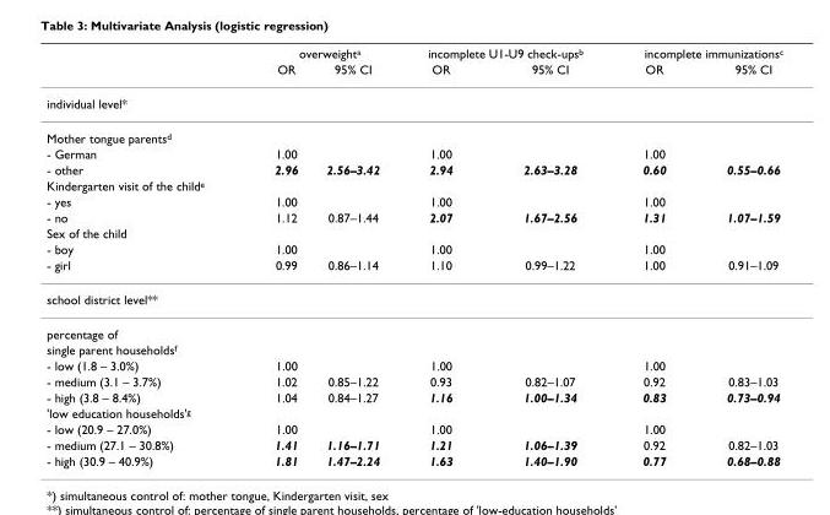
<table><thead><tr><td rowspan="2"></td><td colspan="2">overweight<sup>a</sup></td><td colspan="2">incomplete U1-U9 check-ups<sup>b</sup></td><td colspan="2">incomplete immunizations<sup>c</sup></td></tr><tr><td>OR</td><td>95% CI</td><td>OR</td><td>95% CI</td><td>OR</td><td>95% CI</td></tr></thead><tbody><tr><td colspan="7">individual level*</td></tr><tr><td colspan="7">Mother tongue parents<sup>d</sup></td></tr><tr><td>- German</td><td>1.00</td><td></td><td>1.00</td><td></td><td>1.00</td><td></td></tr><tr><td>- other</td><td>2.96</td><td>2.56–3.42</td><td>2.94</td><td>2.63–3.28</td><td>0.60</td><td>0.55–0.66</td></tr><tr><td colspan="7">Kindergarten visit of the child<sup>e</sup></td></tr><tr><td>- yes</td><td>1.00</td><td></td><td>1.00</td><td></td><td>1.00</td><td></td></tr><tr><td>- no</td><td>1.12</td><td>0.87–1.44</td><td>2.07</td><td>1.67–2.56</td><td>1.31</td><td>1.07–1.59</td></tr><tr><td colspan="7">Sex of the child</td></tr><tr><td>- boy</td><td>1.00</td><td></td><td>1.00</td><td></td><td>1.00</td><td></td></tr><tr><td>- girl</td><td>0.99</td><td>0.86–1.14</td><td>1.10</td><td>0.99–1.22</td><td>1.00</td><td>0.91–1.09</td></tr><tr><td colspan="7">school district level**</td></tr><tr><td colspan="7">percentage of</td></tr><tr><td colspan="7">single parent households<sup>f</sup></td></tr><tr><td>- low (1.8 – 3.0%)</td><td>1.00</td><td></td><td>1.00</td><td></td><td>1.00</td><td></td></tr><tr><td>- medium (3.1 – 3.7%)</td><td>1.02</td><td>0.85–1.22</td><td>0.93</td><td>0.82–1.07</td><td>0.92</td><td>0.83–1.03</td></tr><tr><td>- high (3.8 – 8.4%)</td><td>1.04</td><td>0.84–1.27</td><td>1.16</td><td>1.00–1.34</td><td>0.83</td><td>0.73–0.94</td></tr><tr><td colspan="7">&#x27;low education households&#x27;<sup>g</sup></td></tr><tr><td>- low (20.9 – 27.0%)</td><td>1.00</td><td></td><td>1.00</td><td></td><td>1.00</td><td></td></tr><tr><td>- medium (27.1 – 30.8%)</td><td>1.41</td><td>1.16–1.71</td><td>1.21</td><td>1.06–1.39</td><td>0.92</td><td>0.82–1.03</td></tr><tr><td>- high (30.9 – 40.9%)</td><td>1.81</td><td>1.47–2.24</td><td>1.63</td><td>1.40–1.90</td><td>0.77</td><td>0.68–0.88</td></tr></tbody></table>